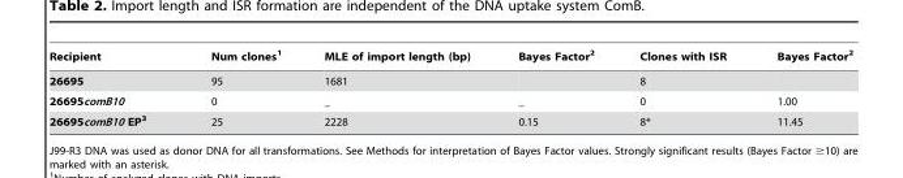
<table><thead><tr><td>Recipient</td><td>Num clones<sup>1</sup></td><td>MLE of import length (bp)</td><td>Bayes Factor<sup>2</sup></td><td>Clones with ISR</td><td>Bayes Factor<sup>2</sup></td></tr></thead><tbody><tr><td>26695</td><td>95</td><td>1681</td><td></td><td>8</td><td></td></tr><tr><td>26695comB10</td><td>0</td><td>_</td><td>_</td><td>0</td><td>1.00</td></tr><tr><td>26695comB10 EP<sup>3</sup></td><td>25</td><td>2228</td><td>0.15</td><td>8*</td><td>11.45</td></tr></tbody></table>